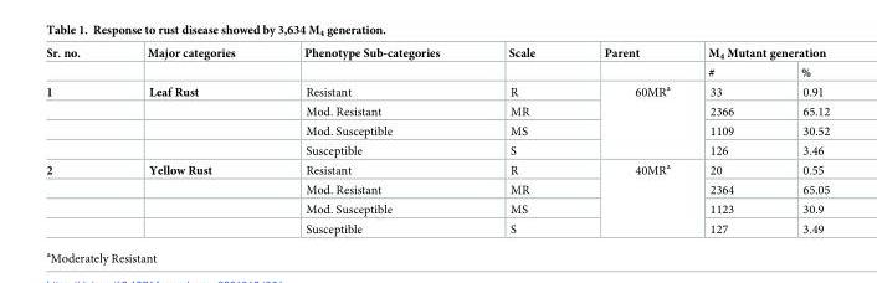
<table><thead><tr><td rowspan="2">Sr. no.</td><td rowspan="2">Major categories</td><td rowspan="2">Phenotype Sub-categories</td><td rowspan="2">Scale</td><td rowspan="2">Parent</td><td colspan="2">M<sub>4</sub> Mutant generation</td></tr><tr><td>#</td><td>%</td></tr></thead><tbody><tr><td rowspan="4">1</td><td>Leaf Rust</td><td>Resistant</td><td>R</td><td rowspan="4">60MR<sup>a</sup></td><td>33</td><td>0.91</td></tr><tr><td></td><td>Mod. Resistant</td><td>MR</td><td>2366</td><td>65.12</td></tr><tr><td></td><td>Mod. Susceptible</td><td>MS</td><td>1109</td><td>30.52</td></tr><tr><td></td><td>Susceptible</td><td>S</td><td>126</td><td>3.46</td></tr><tr><td rowspan="4">2</td><td>Yellow Rust</td><td>Resistant</td><td>R</td><td rowspan="4">40MR<sup>a</sup></td><td>20</td><td>0.55</td></tr><tr><td></td><td>Mod. Resistant</td><td>MR</td><td>2364</td><td>65.05</td></tr><tr><td></td><td>Mod. Susceptible</td><td>MS</td><td>1123</td><td>30.9</td></tr><tr><td></td><td>Susceptible</td><td>S</td><td>127</td><td>3.49</td></tr></tbody></table>